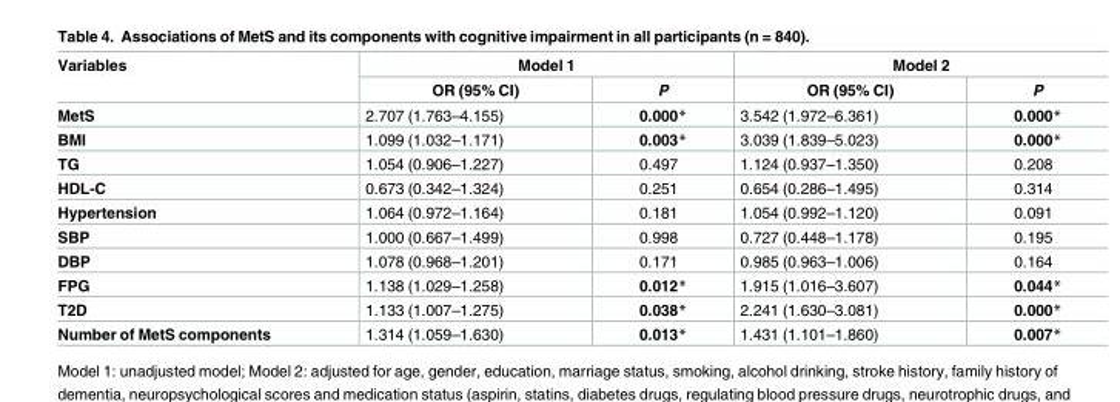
<table><thead><tr><td rowspan="2">Variables</td><td colspan="2">Model 1</td><td colspan="2">Model 2</td></tr><tr><td>OR (95% CI)</td><td>P</td><td>OR (95% CI)</td><td>P</td></tr></thead><tbody><tr><td>MetS</td><td>2.707 (1.763–4.155)</td><td>0.000*</td><td>3.542 (1.972–6.361)</td><td>0.000*</td></tr><tr><td>BMI</td><td>1.099 (1.032–1.171)</td><td>0.003*</td><td>3.039 (1.839–5.023)</td><td>0.000*</td></tr><tr><td>TG</td><td>1.054 (0.906–1.227)</td><td>0.497</td><td>1.124 (0.937–1.350)</td><td>0.208</td></tr><tr><td>HDL-C</td><td>0.673 (0.342–1.324)</td><td>0.251</td><td>0.654 (0.286–1.495)</td><td>0.314</td></tr><tr><td>Hypertension</td><td>1.064 (0.972–1.164)</td><td>0.181</td><td>1.054 (0.992–1.120)</td><td>0.091</td></tr><tr><td>SBP</td><td>1.000 (0.667–1.499)</td><td>0.998</td><td>0.727 (0.448–1.178)</td><td>0.195</td></tr><tr><td>DBP</td><td>1.078 (0.968–1.201)</td><td>0.171</td><td>0.985 (0.963–1.006)</td><td>0.164</td></tr><tr><td>FPG</td><td>1.138 (1.029–1.258)</td><td>0.012*</td><td>1.915 (1.016–3.607)</td><td>0.044*</td></tr><tr><td>T2D</td><td>1.133 (1.007–1.275)</td><td>0.038*</td><td>2.241 (1.630–3.081)</td><td>0.000*</td></tr><tr><td>Number of MetS components</td><td>1.314 (1.059–1.630)</td><td>0.013*</td><td>1.431 (1.101–1.860)</td><td>0.007*</td></tr></tbody></table>